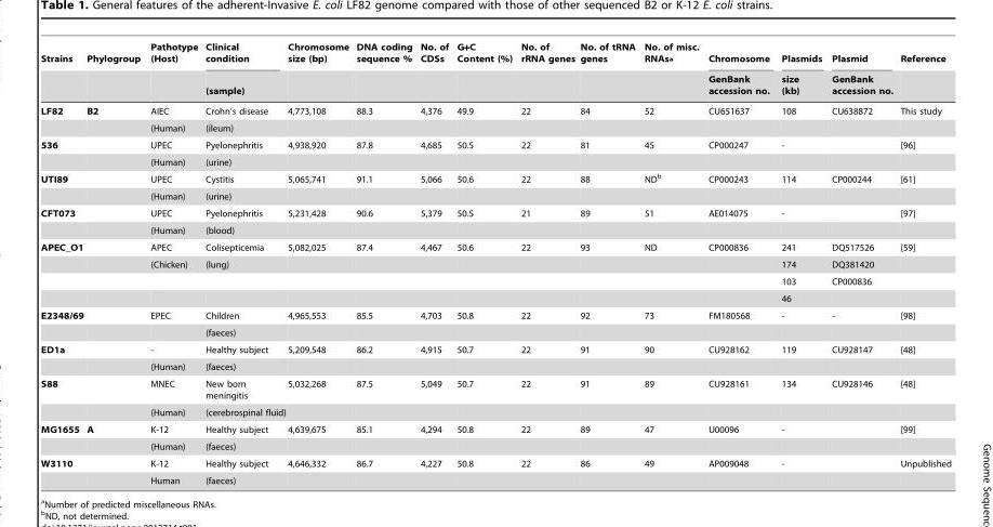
<table><thead><tr><td rowspan="2">Strains</td><td rowspan="2">Phylogroup</td><td rowspan="2">Pathotype (Host)</td><td rowspan="2">Clinical condition (sample)</td><td rowspan="2">Chromosome size (bp)</td><td rowspan="2">DNA coding sequence %</td><td rowspan="2">No. of CDSs</td><td rowspan="2">G+C Content (%)</td><td rowspan="2">No. of rRNA genes</td><td rowspan="2">No. of tRNA genes</td><td rowspan="2">No. of misc. RNAs<sup>a</sup></td><td rowspan="2">Chromosome GenBank accession no.</td><td rowspan="2">Plasmids size (kb)</td><td rowspan="2">Plasmid GenBank accession no.</td><td rowspan="2">Reference</td></tr><tr></tr></thead><tbody><tr><td rowspan="2">LF82</td><td>B2</td><td>AIEC</td><td>Crohn’s disease</td><td>4,773,108</td><td>88.3</td><td>4,376</td><td>49.9</td><td>22</td><td>84</td><td>52</td><td>CU651637</td><td>108</td><td>CU638872</td><td>This study</td></tr><tr><td></td><td>(Human)</td><td>(ileum)</td><td></td><td></td><td></td><td></td><td></td><td></td><td></td><td></td><td></td><td></td><td></td></tr><tr><td rowspan="2">536</td><td></td><td>UPEC</td><td>Pyelonephritis</td><td>4,938,920</td><td>87.8</td><td>4,685</td><td>50.5</td><td>22</td><td>81</td><td>45</td><td>CP000247</td><td>-</td><td></td><td>[96]</td></tr><tr><td></td><td>(Human)</td><td>(urine)</td><td></td><td></td><td></td><td></td><td></td><td></td><td></td><td></td><td></td><td></td><td></td></tr><tr><td rowspan="2">UTI89</td><td></td><td>UPEC</td><td>Cystitis</td><td>5,065,741</td><td>91.1</td><td>5,066</td><td>50.6</td><td>22</td><td>88</td><td>ND<sup>b</sup></td><td>CP000243</td><td>114</td><td>CP000244</td><td>[61]</td></tr><tr><td></td><td>(Human)</td><td>(urine)</td><td></td><td></td><td></td><td></td><td></td><td></td><td></td><td></td><td></td><td></td><td></td></tr><tr><td rowspan="2">CFT073</td><td></td><td>UPEC</td><td>Pyelonephritis</td><td>5,231,428</td><td>90.6</td><td>5,379</td><td>50.5</td><td>21</td><td>89</td><td>51</td><td>AE014075</td><td>-</td><td></td><td>[97]</td></tr><tr><td></td><td>(Human)</td><td>(blood)</td><td></td><td></td><td></td><td></td><td></td><td></td><td></td><td></td><td></td><td></td><td></td></tr><tr><td rowspan="4">APEC_O1</td><td></td><td>APEC</td><td>Colisepticemia</td><td>5,082,025</td><td>87.4</td><td>4,467</td><td>50.6</td><td>22</td><td>93</td><td>ND</td><td>CP000836</td><td>241</td><td>DQ517526</td><td>[59]</td></tr><tr><td></td><td>(Chicken)</td><td>(lung)</td><td></td><td></td><td></td><td></td><td></td><td></td><td></td><td></td><td>174</td><td>DQ381420</td><td></td></tr><tr><td></td><td></td><td></td><td></td><td></td><td></td><td></td><td></td><td></td><td></td><td></td><td>103</td><td>CP000836</td><td></td></tr><tr><td></td><td></td><td></td><td></td><td></td><td></td><td></td><td></td><td></td><td></td><td></td><td>46</td><td></td><td></td></tr><tr><td rowspan="2">E2348/69</td><td></td><td>EPEC</td><td>Children</td><td>4,965,553</td><td>85.5</td><td>4,703</td><td>50.8</td><td>22</td><td>92</td><td>73</td><td>FM180568</td><td>-</td><td>-</td><td>[98]</td></tr><tr><td></td><td></td><td>(faeces)</td><td></td><td></td><td></td><td></td><td></td><td></td><td></td><td></td><td></td><td></td><td></td></tr><tr><td rowspan="2">ED1a</td><td></td><td>-</td><td>Healthy subject</td><td>5,209,548</td><td>86.2</td><td>4,915</td><td>50.7</td><td>22</td><td>91</td><td>90</td><td>CU928162</td><td>119</td><td>CU928147</td><td>[48]</td></tr><tr><td></td><td>(Human)</td><td>(faeces)</td><td></td><td></td><td></td><td></td><td></td><td></td><td></td><td></td><td></td><td></td><td></td></tr><tr><td rowspan="2">S88</td><td></td><td>MNEC</td><td>New born meningitis</td><td>5,032,268</td><td>87.5</td><td>5,049</td><td>50.7</td><td>22</td><td>91</td><td>89</td><td>CU928161</td><td>134</td><td>CU928146</td><td>[48]</td></tr><tr><td></td><td>(Human)</td><td>(cerebrospinal fluid)</td><td></td><td></td><td></td><td></td><td></td><td></td><td></td><td></td><td></td><td></td><td></td></tr><tr><td rowspan="2">MG1655</td><td>A</td><td>K-12</td><td>Healthy subject</td><td>4,639,675</td><td>85.1</td><td>4,294</td><td>50.8</td><td>22</td><td>89</td><td>47</td><td>U00096</td><td>-</td><td></td><td>[99]</td></tr><tr><td></td><td>(Human)</td><td>(faeces)</td><td></td><td></td><td></td><td></td><td></td><td></td><td></td><td></td><td></td><td></td><td></td></tr><tr><td rowspan="2">W3110</td><td></td><td>K-12</td><td>Healthy subject</td><td>4,646,332</td><td>86.7</td><td>4,227</td><td>50.8</td><td>22</td><td>86</td><td>49</td><td>AP009048</td><td>-</td><td></td><td>Unpublished</td></tr><tr><td></td><td>Human</td><td>(faeces)</td><td></td><td></td><td></td><td></td><td></td><td></td><td></td><td></td><td></td><td></td><td></td></tr></tbody></table>